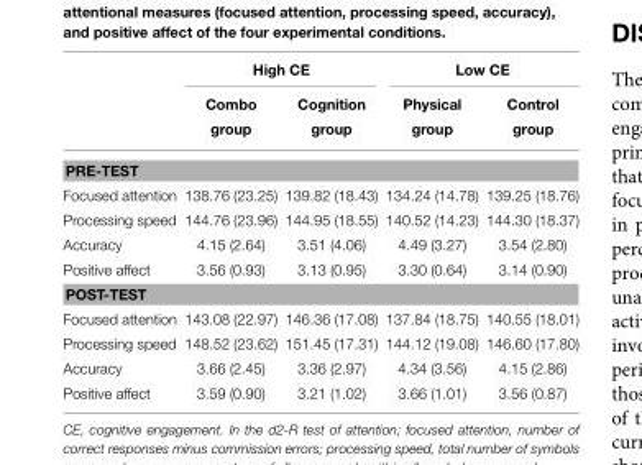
<table><thead><tr><td rowspan="2"></td><td colspan="2">High CE</td><td colspan="2">Low CE</td></tr><tr><td>Combo group</td><td>Cognition group</td><td>Physical group</td><td>Control group</td></tr></thead><tbody><tr><td colspan="5">PRE-TEST</td></tr><tr><td>Focused attention</td><td>138.76 (23.25)</td><td>139.82 (18.43)</td><td>134.24 (14.78)</td><td>139.25 (18.76)</td></tr><tr><td>Processing speed</td><td>144.76 (23.96)</td><td>144.95 (18.55)</td><td>140.52 (14.23)</td><td>144.30 (18.37)</td></tr><tr><td>Accuracy</td><td>4.15 (2.64)</td><td>3.51 (4.06)</td><td>4.49 (3.27)</td><td>3.54 (2.80)</td></tr><tr><td>Positive affect</td><td>3.56 (0.93)</td><td>3.13 (0.95)</td><td>3.30 (0.64)</td><td>3.14 (0.90)</td></tr><tr><td colspan="5">POST-TEST</td></tr><tr><td>Focused attention</td><td>143.08 (22.97)</td><td>146.36 (17.08)</td><td>137.84 (18.75)</td><td>140.55 (18.01)</td></tr><tr><td>Processing speed</td><td>148.52 (23.62)</td><td>151.45 (17.31)</td><td>144.12 (19.08)</td><td>146.60 (17.80)</td></tr><tr><td>Accuracy</td><td>3.66 (2.45)</td><td>3.36 (2.97)</td><td>4.34 (3.56)</td><td>4.15 (2.86)</td></tr><tr><td>Positive affect</td><td>3.59 (0.90)</td><td>3.21 (1.02)</td><td>3.66 (1.01)</td><td>3.56 (0.87)</td></tr></tbody></table>